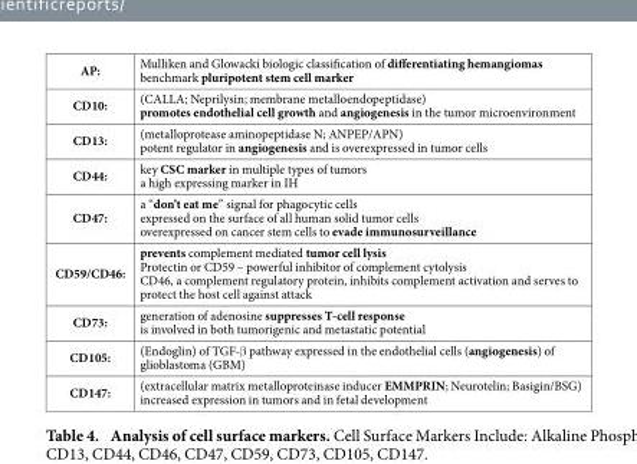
<table><tbody><tr><td>AP:</td><td>Mulliken and Glowacki biologic classification of differentiating hemangiomas benchmark pluripotent stem cell marker</td></tr><tr><td>CD10:</td><td>(CALLA; Neprilysin; membrane metalloendopeptidase) promotes endothelial cell growth and angiogenesis in the tumor microenvironment</td></tr><tr><td>CD13:</td><td>(metalloprotease aminopeptidase N; ANPEP/APN) potent regulator in angiogenesis and is overexpressed in tumor cells</td></tr><tr><td>CD44:</td><td>key CSC marker in multiple types of tumors a high expressing marker in IH</td></tr><tr><td>CD47:</td><td>a “don’t eat me” signal for phagocytic cells expressed on the surface of all human solid tumor cells overexpressed on cancer stem cells to evade immunosurveillance</td></tr><tr><td>CD59/CD46:</td><td>prevents complement mediated tumor cell lysis Protectin or CD59 – powerful inhibitor of complement cytolysis CD46, a complement regulatory protein, inhibits complement activation and serves to protect the host cell against attack</td></tr><tr><td>CD73:</td><td>generation of adenosine suppresses T-cell response is involved in both tumorigenic and metastatic potential</td></tr><tr><td>CD105:</td><td>(Endoglin) of TGF-β pathway expressed in the endothelial cells (angiogenesis) of glioblastoma (GBM)</td></tr><tr><td>CD147:</td><td>(extracellular matrix metalloproteinase inducer EMMPRIN; Neurotelin; Basigin/BSG) increased expression in tumors and in fetal development</td></tr></tbody></table>